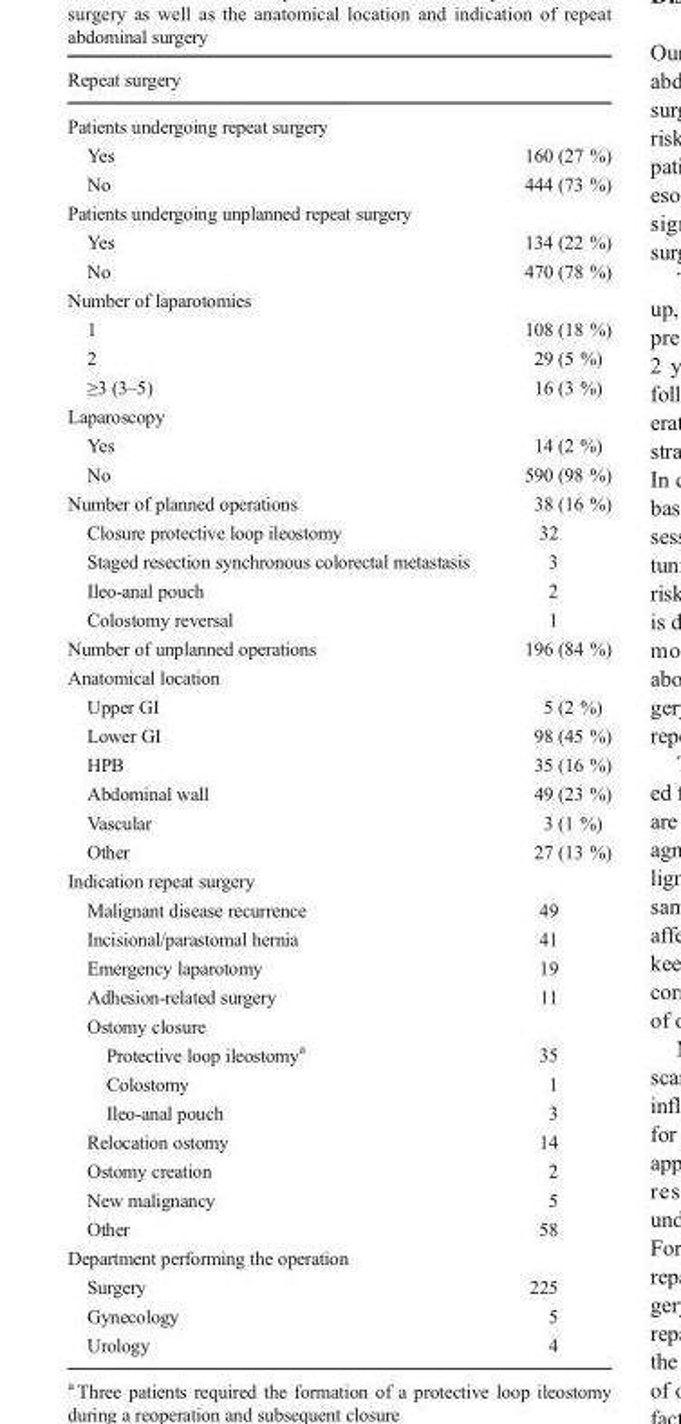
<table><thead><tr><td>Repeat surgery</td><td></td></tr></thead><tbody><tr><td colspan="2">Patients undergoing repeat surgery</td></tr><tr><td>Yes</td><td>160 (27 %)</td></tr><tr><td>No</td><td>444 (73 %)</td></tr><tr><td colspan="2">Patients undergoing unplanned repeat surgery</td></tr><tr><td>Yes</td><td>134 (22 %)</td></tr><tr><td>No</td><td>470 (78 %)</td></tr><tr><td colspan="2">Number of laparotomies</td></tr><tr><td>1</td><td>108 (18 %)</td></tr><tr><td>2</td><td>29 (5 %)</td></tr><tr><td>≥3 (3–5)</td><td>16 (3 %)</td></tr><tr><td colspan="2">Laparoscopy</td></tr><tr><td>Yes</td><td>14 (2 %)</td></tr><tr><td>No</td><td>590 (98 %)</td></tr><tr><td>Number of planned operations</td><td>38 (16 %)</td></tr><tr><td>Closure protective loop ileostomy</td><td>32</td></tr><tr><td>Staged resection synchronous colorectal metastasis</td><td>3</td></tr><tr><td>Ileo-anal pouch</td><td>2</td></tr><tr><td>Colostomy reversal</td><td>1</td></tr><tr><td>Number of unplanned operations</td><td>196 (84 %)</td></tr><tr><td colspan="2">Anatomical location</td></tr><tr><td>Upper GI</td><td>5 (2 %)</td></tr><tr><td>Lower GI</td><td>98 (45 %)</td></tr><tr><td>HPB</td><td>35 (16 %)</td></tr><tr><td>Abdominal wall</td><td>49 (23 %)</td></tr><tr><td>Vascular</td><td>3 (1 %)</td></tr><tr><td>Other</td><td>27 (13 %)</td></tr><tr><td colspan="2">Indication repeat surgery</td></tr><tr><td>Malignant disease recurrence</td><td>49</td></tr><tr><td>Incisional/parastomal hernia</td><td>41</td></tr><tr><td>Emergency laparotomy</td><td>19</td></tr><tr><td>Adhesion-related surgery</td><td>11</td></tr><tr><td colspan="2">Ostomy closure</td></tr><tr><td>Protective loop ileostomy<sup>a</sup></td><td>35</td></tr><tr><td>Colostomy</td><td>1</td></tr><tr><td>Ileo-anal pouch</td><td>3</td></tr><tr><td>Relocation ostomy</td><td>14</td></tr><tr><td>Ostomy creation</td><td>2</td></tr><tr><td>New malignancy</td><td>5</td></tr><tr><td>Other</td><td>58</td></tr><tr><td colspan="2">Department performing the operation</td></tr><tr><td>Surgery</td><td>225</td></tr><tr><td>Gynecology</td><td>5</td></tr><tr><td>Urology</td><td>4</td></tr></tbody></table>